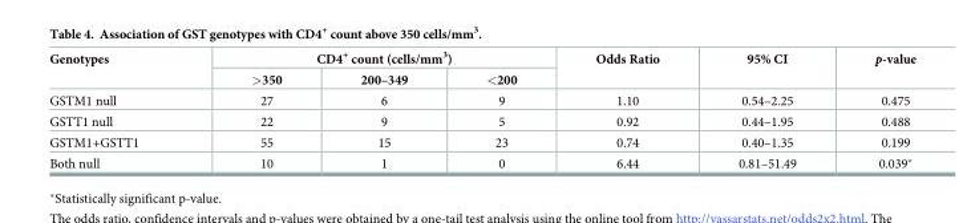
<table><thead><tr><td rowspan="2">Genotypes</td><td colspan="3">CD4<sup>+</sup> count (cells/mm<sup>3</sup>)</td><td rowspan="2">Odds Ratio</td><td rowspan="2">95% CI</td><td rowspan="2">p-value</td></tr><tr><td>&gt;350</td><td>200–349</td><td>&lt;200</td></tr></thead><tbody><tr><td>GSTM1 null</td><td>27</td><td>6</td><td>9</td><td>1.10</td><td>0.54–2.25</td><td>0.475</td></tr><tr><td>GSTT1 null</td><td>22</td><td>9</td><td>5</td><td>0.92</td><td>0.44–1.95</td><td>0.488</td></tr><tr><td>GSTM1+GSTT1</td><td>55</td><td>15</td><td>23</td><td>0.74</td><td>0.40–1.35</td><td>0.199</td></tr><tr><td>Both null</td><td>10</td><td>1</td><td>0</td><td>6.44</td><td>0.81–51.49</td><td>0.039*</td></tr></tbody></table>